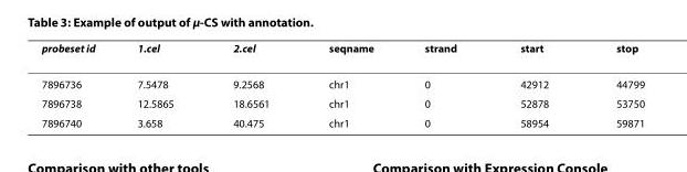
<table><thead><tr><td>probeset id</td><td>1.cel</td><td>2.cel</td><td>seqname</td><td>strand</td><td>start</td><td>stop</td></tr></thead><tbody><tr><td>7896736</td><td>7.5478</td><td>9.2568</td><td>chr1</td><td>0</td><td>42912</td><td>44799</td></tr><tr><td>7896738</td><td>12.5865</td><td>18.6561</td><td>chr1</td><td>0</td><td>52878</td><td>53750</td></tr><tr><td>7896740</td><td>3.658</td><td>40.475</td><td>chr1</td><td>0</td><td>58954</td><td>59871</td></tr></tbody></table>